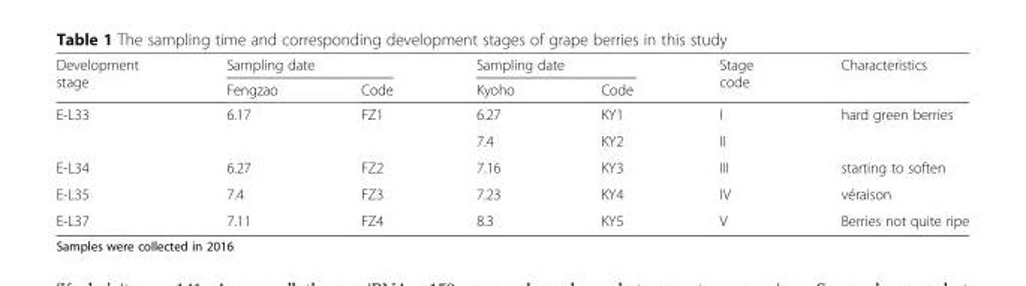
<table><thead><tr><td rowspan="2">Development stage</td><td colspan="2">Sampling date</td><td colspan="2">Sampling date</td><td rowspan="2">Stage code</td><td rowspan="2">Characteristics</td></tr><tr><td>Fengzao</td><td>Code</td><td>Kyoho</td><td>Code</td></tr></thead><tbody><tr><td rowspan="2">E-L33</td><td>6.17</td><td>FZ1</td><td>6.27</td><td>KY1</td><td>I</td><td>hard green berries</td></tr><tr><td></td><td></td><td>7.4</td><td>KY2</td><td>II</td><td></td></tr><tr><td>E-L34</td><td>6.27</td><td>FZ2</td><td>7.16</td><td>KY3</td><td>III</td><td>starting to soften</td></tr><tr><td>E-L35</td><td>7.4</td><td>FZ3</td><td>7.23</td><td>KY4</td><td>IV</td><td>véraison</td></tr><tr><td>E-L37</td><td>7.11</td><td>FZ4</td><td>8.3</td><td>KY5</td><td>V</td><td>Berries not quite ripe</td></tr></tbody></table>